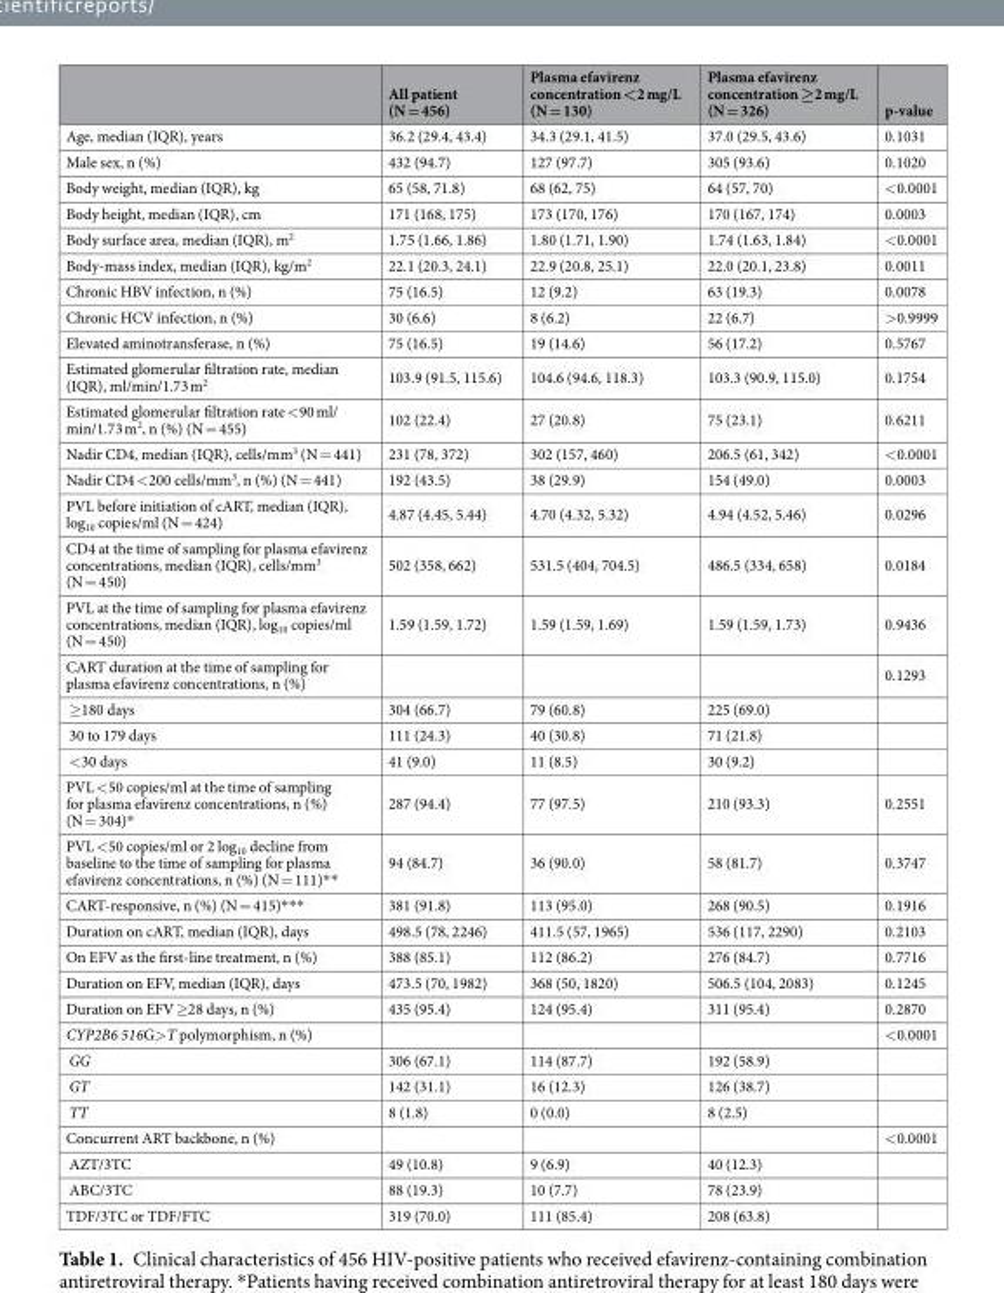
<table><thead><tr><td></td><td>All patient (N = 456)</td><td>Plasma efavirenz concentration &lt;2 mg/L (N = 130)</td><td>Plasma efavirenz concentration ≥2 mg/L (N = 326)</td><td>p-value</td></tr></thead><tbody><tr><td>Age, median (IQR), years</td><td>36.2 (29.4, 43.4)</td><td>34.3 (29.1, 41.5)</td><td>37.0 (29.5, 43.6)</td><td>0.1031</td></tr><tr><td>Male sex, n (%)</td><td>432 (94.7)</td><td>127 (97.7)</td><td>305 (93.6)</td><td>0.1020</td></tr><tr><td>Body weight, median (IQR), kg</td><td>65 (58, 71.8)</td><td>68 (62, 75)</td><td>64 (57, 70)</td><td>&lt;0.0001</td></tr><tr><td>Body height, median (IQR), cm</td><td>171 (168, 175)</td><td>173 (170, 176)</td><td>170 (167, 174)</td><td>0.0003</td></tr><tr><td>Body surface area, median (IQR), m<sup>2</sup></td><td>1.75 (1.66, 1.86)</td><td>1.80 (1.71, 1.90)</td><td>1.74 (1.63, 1.84)</td><td>&lt;0.0001</td></tr><tr><td>Body-mass index, median (IQR), kg/m<sup>2</sup></td><td>22.1 (20.3, 24.1)</td><td>22.9 (20.8, 25.1)</td><td>22.0 (20.1, 23.8)</td><td>0.0011</td></tr><tr><td>Chronic HBV infection, n (%)</td><td>75 (16.5)</td><td>12 (9.2)</td><td>63 (19.3)</td><td>0.0078</td></tr><tr><td>Chronic HCV infection, n (%)</td><td>30 (6.6)</td><td>8 (6.2)</td><td>22 (6.7)</td><td>&gt;0.9999</td></tr><tr><td>Elevated aminotransferase, n (%)</td><td>75 (16.5)</td><td>19 (14.6)</td><td>56 (17.2)</td><td>0.5767</td></tr><tr><td>Estimated glomerular filtration rate, median (IQR), ml/min/1.73 m<sup>2</sup></td><td>103.9 (91.5, 115.6)</td><td>104.6 (94.6, 118.3)</td><td>103.3 (90.9, 115.0)</td><td>0.1754</td></tr><tr><td>Estimated glomerular filtration rate &lt;90 ml/ min/1.73 m<sup>2</sup>, n (%) (N = 455)</td><td>102 (22.4)</td><td>27 (20.8)</td><td>75 (23.1)</td><td>0.6211</td></tr><tr><td>Nadir CD4, median (IQR), cells/mm<sup>3</sup> (N = 441)</td><td>231 (78, 372)</td><td>302 (157, 460)</td><td>206.5 (61, 342)</td><td>&lt;0.0001</td></tr><tr><td>Nadir CD4 &lt;200 cells/mm<sup>3</sup>, n (%) (N = 441)</td><td>192 (43.5)</td><td>38 (29.9)</td><td>154 (49.0)</td><td>0.0003</td></tr><tr><td>PVL before initiation of cART, median (IQR), log<sub>10</sub> copies/ml (N = 424)</td><td>4.87 (4.45, 5.44)</td><td>4.70 (4.32, 5.32)</td><td>4.94 (4.52, 5.46)</td><td>0.0296</td></tr><tr><td>CD4 at the time of sampling for plasma efavirenz concentrations, median (IQR), cells/mm<sup>3</sup> (N = 450)</td><td>502 (358, 662)</td><td>531.5 (404, 704.5)</td><td>486.5 (334, 658)</td><td>0.0184</td></tr><tr><td>PVL at the time of sampling for plasma efavirenz concentrations, median (IQR), log<sub>10</sub> copies/ml (N = 450)</td><td>1.59 (1.59, 1.72)</td><td>1.59 (1.59, 1.69)</td><td>1.59 (1.59, 1.73)</td><td>0.9436</td></tr><tr><td>CART duration at the time of sampling for plasma efavirenz concentrations, n (%)</td><td></td><td></td><td></td><td>0.1293</td></tr><tr><td>≥180 days</td><td>304 (66.7)</td><td>79 (60.8)</td><td>225 (69.0)</td><td></td></tr><tr><td>30 to 179 days</td><td>111 (24.3)</td><td>40 (30.8)</td><td>71 (21.8)</td><td></td></tr><tr><td>&lt;30 days</td><td>41 (9.0)</td><td>11 (8.5)</td><td>30 (9.2)</td><td></td></tr><tr><td>PVL &lt;50 copies/ml at the time of sampling for plasma efavirenz concentrations, n (%) (N = 304)*</td><td>287 (94.4)</td><td>77 (97.5)</td><td>210 (93.3)</td><td>0.2551</td></tr><tr><td>PVL &lt;50 copies/ml or 2 log<sub>10</sub> decline from baseline to the time of sampling for plasma efavirenz concentrations, n (%) (N = 111)**</td><td>94 (84.7)</td><td>36 (90.0)</td><td>58 (81.7)</td><td>0.3747</td></tr><tr><td>CART-responsive, n (%) (N = 415)***</td><td>381 (91.8)</td><td>113 (95.0)</td><td>268 (90.5)</td><td>0.1916</td></tr><tr><td>Duration on cART, median (IQR), days</td><td>498.5 (78, 2246)</td><td>411.5 (57, 1965)</td><td>536 (117, 2290)</td><td>0.2103</td></tr><tr><td>On EFV as the first-line treatment, n (%)</td><td>388 (85.1)</td><td>112 (86.2)</td><td>276 (84.7)</td><td>0.7716</td></tr><tr><td>Duration on EFV, median (IQR), days</td><td>473.5 (70, 1982)</td><td>368 (50, 1820)</td><td>506.5 (104, 2083)</td><td>0.1245</td></tr><tr><td>Duration on EFV ≥28 days, n (%)</td><td>435 (95.4)</td><td>124 (95.4)</td><td>311 (95.4)</td><td>0.2870</td></tr><tr><td>CYP2B6 516G&gt;T polymorphism, n (%)</td><td></td><td></td><td></td><td>&lt;0.0001</td></tr><tr><td>GG</td><td>306 (67.1)</td><td>114 (87.7)</td><td>192 (58.9)</td><td></td></tr><tr><td>GT</td><td>142 (31.1)</td><td>16 (12.3)</td><td>126 (38.7)</td><td></td></tr><tr><td>TT</td><td>8 (1.8)</td><td>0 (0.0)</td><td>8 (2.5)</td><td></td></tr><tr><td>Concurrent ART backbone, n (%)</td><td></td><td></td><td></td><td>&lt;0.0001</td></tr><tr><td>AZT/3TC</td><td>49 (10.8)</td><td>9 (6.9)</td><td>40 (12.3)</td><td></td></tr><tr><td>ABC/3TC</td><td>88 (19.3)</td><td>10 (7.7)</td><td>78 (23.9)</td><td></td></tr><tr><td>TDF/3TC or TDF/FTC</td><td>319 (70.0)</td><td>111 (85.4)</td><td>208 (63.8)</td><td></td></tr></tbody></table>